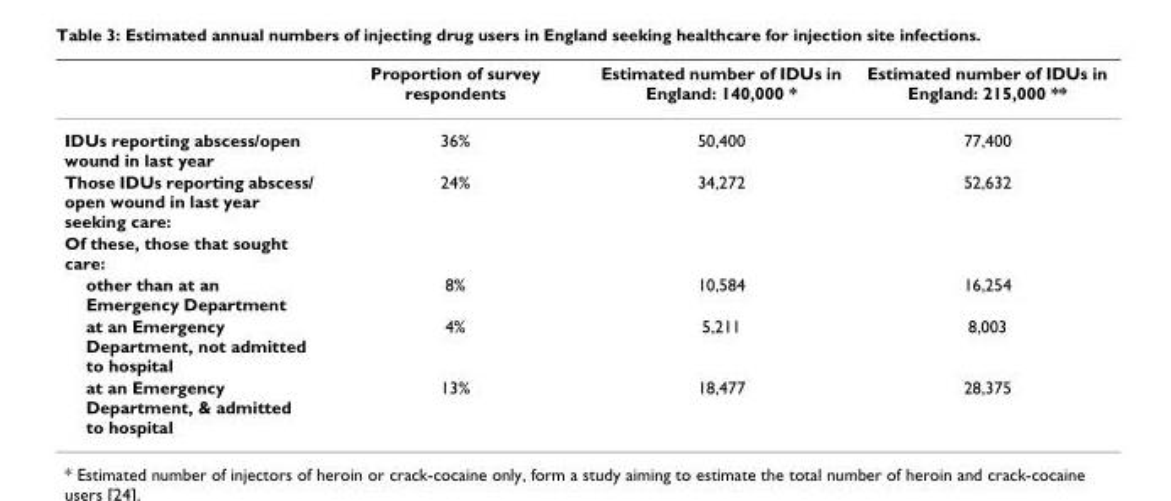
<table><thead><tr><td></td><td>Proportion of survey respondents</td><td>Estimated number of IDUs in England: 140,000 *</td><td>Estimated number of IDUs in England: 215,000 **</td></tr></thead><tbody><tr><td>IDUs reporting abscess/open wound in last year</td><td>36%</td><td>50,400</td><td>77,400</td></tr><tr><td>Those IDUs reporting abscess/ open wound in last year seeking care:</td><td>24%</td><td>34,272</td><td>52,632</td></tr><tr><td colspan="4">Of these, those that sought care:</td></tr><tr><td>other than at an Emergency Department</td><td>8%</td><td>10,584</td><td>16,254</td></tr><tr><td>at an Emergency Department, not admitted to hospital</td><td>4%</td><td>5,211</td><td>8,003</td></tr><tr><td>at an Emergency Department, &amp; admitted to hospital</td><td>13%</td><td>18,477</td><td>28,375</td></tr></tbody></table>